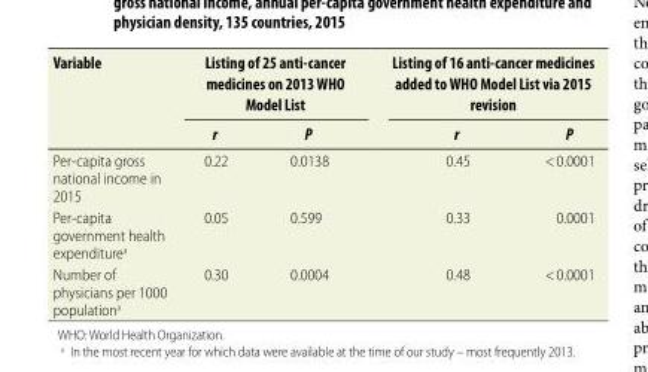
<table><thead><tr><td rowspan="2">Variable</td><td colspan="2">Listing of 25 anti-cancer medicines on 2013 WHO Model List</td><td colspan="2">Listing of 16 anti-cancer medicines added to WHO Model List via 2015 revision</td></tr><tr><td>r</td><td>P</td><td>r</td><td>P</td></tr></thead><tbody><tr><td>Per-capita gross national income in 2015</td><td>0.22</td><td>0.0138</td><td>0.45</td><td>&lt; 0.0001</td></tr><tr><td>Per-capita government health expenditure<sup>a</sup></td><td>0.05</td><td>0.599</td><td>0.33</td><td>0.0001</td></tr><tr><td>Number of physicians per 1000 population<sup>a</sup></td><td>0.30</td><td>0.0004</td><td>0.48</td><td>&lt; 0.0001</td></tr></tbody></table>